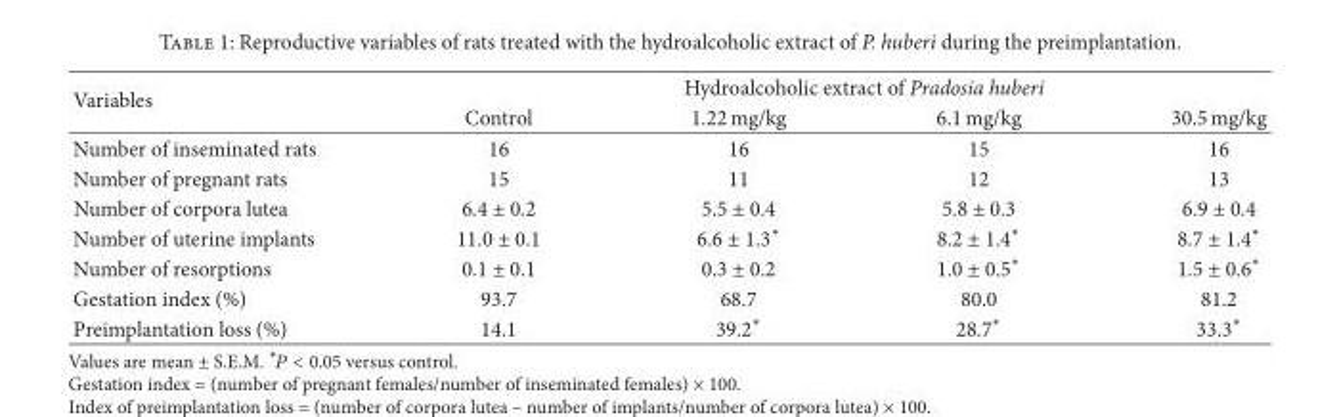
<table><thead><tr><td rowspan="2">Variables</td><td colspan="4">Hydroalcoholic extract of Pradosia huberi</td></tr><tr><td>Control</td><td>1.22 mg/kg</td><td>6.1 mg/kg</td><td>30.5 mg/kg</td></tr></thead><tbody><tr><td>Number of inseminated rats</td><td>16</td><td>16</td><td>15</td><td>16</td></tr><tr><td>Number of pregnant rats</td><td>15</td><td>11</td><td>12</td><td>13</td></tr><tr><td>Number of corpora lutea</td><td>6.4 ± 0.2</td><td>5.5 ± 0.4</td><td>5.8 ± 0.3</td><td>6.9 ± 0.4</td></tr><tr><td>Number of uterine implants</td><td>11.0 ± 0.1</td><td>6.6 ± 1.3∗</td><td>8.2 ± 1.4∗</td><td>8.7 ± 1.4∗</td></tr><tr><td>Number of resorptions</td><td>0.1 ± 0.1</td><td>0.3 ± 0.2</td><td>1.0 ± 0.5∗</td><td>1.5 ± 0.6∗</td></tr><tr><td>Gestation index (%)</td><td>93.7</td><td>68.7</td><td>80.0</td><td>81.2</td></tr><tr><td>Preimplantation loss (%)</td><td>14.1</td><td>39.2∗</td><td>28.7∗</td><td>33.3∗</td></tr></tbody></table>